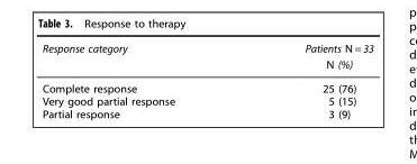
<table><thead><tr><td rowspan="2">Response category</td><td rowspan="2">Patients N = 33 N (%)</td></tr><tr></tr></thead><tbody><tr><td>Complete response</td><td>25 (76)</td></tr><tr><td>Very good partial response</td><td>5 (15)</td></tr><tr><td>Partial response</td><td>3 (9)</td></tr></tbody></table>